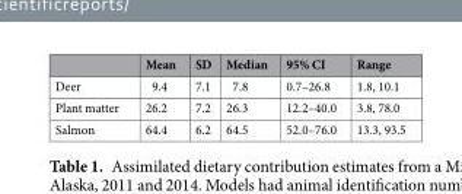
<table><thead><tr><td></td><td>Mean</td><td>SD</td><td>Median</td><td>95% CI</td><td>Range</td></tr></thead><tbody><tr><td>Deer</td><td>9.4</td><td>7.1</td><td>7.8</td><td>0.7–26.8</td><td>1.8, 10.1</td></tr><tr><td>Plant matter</td><td>26.2</td><td>7.2</td><td>26.3</td><td>12.2–40.0</td><td>3.8, 78.0</td></tr><tr><td>Salmon</td><td>64.4</td><td>6.2</td><td>64.5</td><td>52.0–76.0</td><td>13.3, 93.5</td></tr></tbody></table>